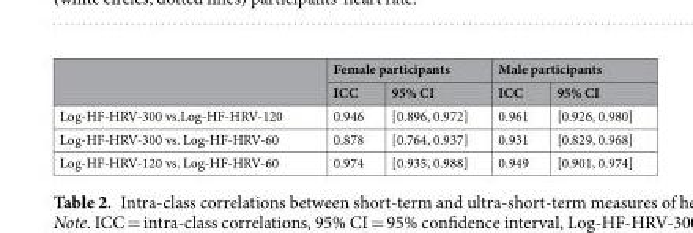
<table><thead><tr><td rowspan="2"></td><td colspan="2">Female participants</td><td colspan="2">Male participants</td></tr><tr><td>ICC</td><td>95% CI</td><td>ICC</td><td>95% CI</td></tr></thead><tbody><tr><td>Log-HF-HRV-300 vs.Log-HF-HRV-120</td><td>0.946</td><td>[0.896, 0.972]</td><td>0.961</td><td>[0.926, 0.980]</td></tr><tr><td>Log-HF-HRV-300 vs. Log-HF-HRV-60</td><td>0.878</td><td>[0.764, 0.937]</td><td>0.931</td><td>[0.829, 0.968]</td></tr><tr><td>Log-HF-HRV-120 vs. Log-HF-HRV-60</td><td>0.974</td><td>[0.935, 0.988]</td><td>0.949</td><td>[0.901, 0.974]</td></tr></tbody></table>